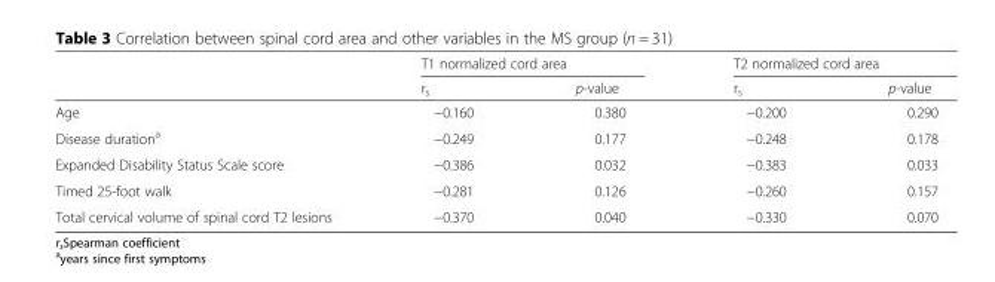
<table><thead><tr><td rowspan="2"></td><td colspan="2">T1 normalized cord area</td><td colspan="2">T2 normalized cord area</td></tr><tr><td>r<sub>s</sub></td><td>p-value</td><td>r<sub>s</sub></td><td>p-value</td></tr></thead><tbody><tr><td>Age</td><td>−0.160</td><td>0.380</td><td>−0.200</td><td>0.290</td></tr><tr><td>Disease duration<sup>a</sup></td><td>−0.249</td><td>0.177</td><td>−0.248</td><td>0.178</td></tr><tr><td>Expanded Disability Status Scale score</td><td>−0.386</td><td>0.032</td><td>−0.383</td><td>0.033</td></tr><tr><td>Timed 25-foot walk</td><td>−0.281</td><td>0.126</td><td>−0.260</td><td>0.157</td></tr><tr><td>Total cervical volume of spinal cord T2 lesions</td><td>−0.370</td><td>0.040</td><td>−0.330</td><td>0.070</td></tr></tbody></table>